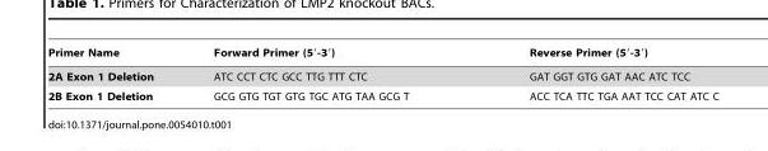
<table><thead><tr><td>Primer Name</td><td>Forward Primer (5′-3′)</td><td>Reverse Primer (5′-3′)</td></tr></thead><tbody><tr><td>2A Exon 1 Deletion</td><td>ATC CCT CTC GCC TTG TTT CTC</td><td>GAT GGT GTG GAT AAC ATC TCC</td></tr><tr><td>2B Exon 1 Deletion</td><td>GCG GTG TGT GTG TGC ATG TAA GCG T</td><td>ACC TCA TTC TGA AAT TCC CAT ATC C</td></tr></tbody></table>